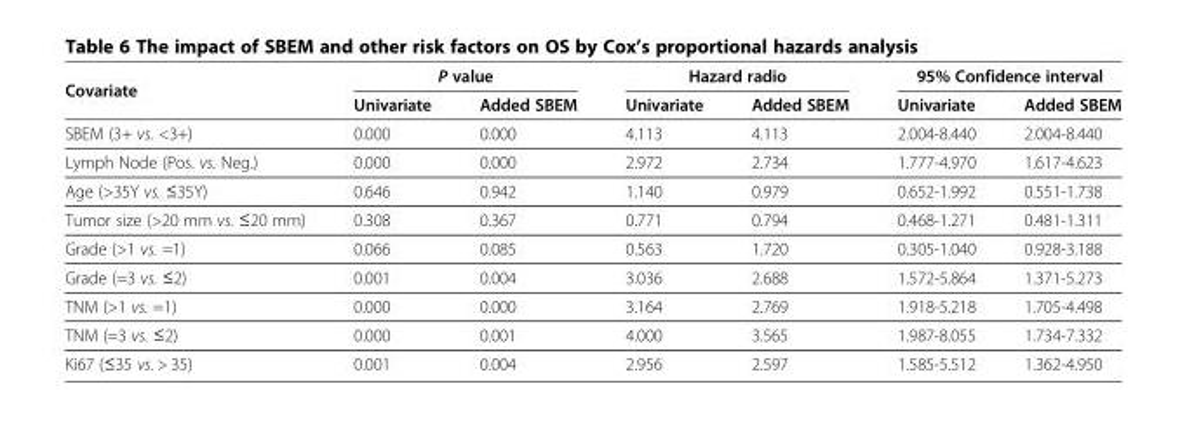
<table><thead><tr><td rowspan="2">Covariate</td><td colspan="2">P value</td><td colspan="2">Hazard radio</td><td colspan="2">95% Confidence interval</td></tr><tr><td>Univariate</td><td>Added SBEM</td><td>Univariate</td><td>Added SBEM</td><td>Univariate</td><td>Added SBEM</td></tr></thead><tbody><tr><td>SBEM (3+ vs. &lt;3+)</td><td>0.000</td><td>0.000</td><td>4.113</td><td>4.113</td><td>2.004-8.440</td><td>2.004-8.440</td></tr><tr><td>Lymph Node (Pos. vs. Neg.)</td><td>0.000</td><td>0.000</td><td>2.972</td><td>2.734</td><td>1.777-4.970</td><td>1.617-4.623</td></tr><tr><td>Age (&gt;35Y vs. ≤35Y)</td><td>0.646</td><td>0.942</td><td>1.140</td><td>0.979</td><td>0.652-1.992</td><td>0.551-1.738</td></tr><tr><td>Tumor size (&gt;20 mm vs. ≤20 mm)</td><td>0.308</td><td>0.367</td><td>0.771</td><td>0.794</td><td>0.468-1.271</td><td>0.481-1.311</td></tr><tr><td>Grade (&gt;1 vs. =1)</td><td>0.066</td><td>0.085</td><td>0.563</td><td>1.720</td><td>0.305-1.040</td><td>0.928-3.188</td></tr><tr><td>Grade (=3 vs. ≤2)</td><td>0.001</td><td>0.004</td><td>3.036</td><td>2.688</td><td>1.572-5.864</td><td>1.371-5.273</td></tr><tr><td>TNM (&gt;1 vs. =1)</td><td>0.000</td><td>0.000</td><td>3.164</td><td>2.769</td><td>1.918-5.218</td><td>1.705-4.498</td></tr><tr><td>TNM (=3 vs. ≤2)</td><td>0.000</td><td>0.001</td><td>4.000</td><td>3.565</td><td>1.987-8.055</td><td>1.734-7.332</td></tr><tr><td>Ki67 (≤35 vs. &gt; 35)</td><td>0.001</td><td>0.004</td><td>2.956</td><td>2.597</td><td>1.585-5.512</td><td>1.362-4.950</td></tr></tbody></table>